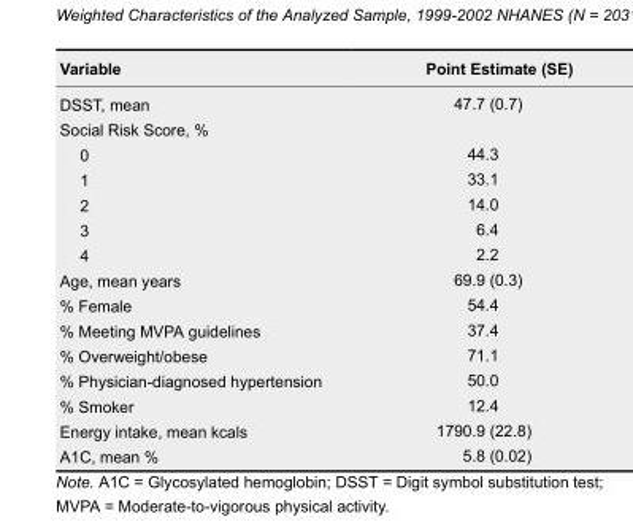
<table><thead><tr><td>Variable</td><td>Point Estimate (SE)</td></tr></thead><tbody><tr><td>DSST, mean</td><td>47.7 (0.7)</td></tr><tr><td colspan="2">Social Risk Score, %</td></tr><tr><td>0</td><td>44.3</td></tr><tr><td>1</td><td>33.1</td></tr><tr><td>2</td><td>14.0</td></tr><tr><td>3</td><td>6.4</td></tr><tr><td>4</td><td>2.2</td></tr><tr><td>Age, mean years</td><td>69.9 (0.3)</td></tr><tr><td>% Female</td><td>54.4</td></tr><tr><td>% Meeting MVPA guidelines</td><td>37.4</td></tr><tr><td>% Overweight/obese</td><td>71.1</td></tr><tr><td>% Physician-diagnosed hypertension</td><td>50.0</td></tr><tr><td>% Smoker</td><td>12.4</td></tr><tr><td>Energy intake, mean kcals</td><td>1790.9 (22.8)</td></tr><tr><td>A1C, mean %</td><td>5.8 (0.02)</td></tr></tbody></table>